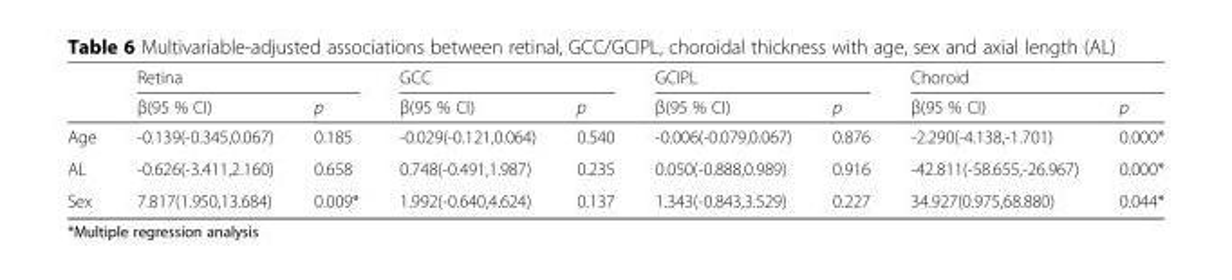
<table><thead><tr><td rowspan="2"></td><td colspan="2">Retina</td><td colspan="2">GCC</td><td colspan="2">GCIPL</td><td colspan="2">Choroid</td></tr><tr><td>β(95 % CI)</td><td>p</td><td>β(95 % CI)</td><td>p</td><td>β(95 % CI)</td><td>p</td><td>β(95 % CI)</td><td>p</td></tr></thead><tbody><tr><td>Age</td><td>-0.139(-0.345,0.067)</td><td>0.185</td><td>-0.029(-0.121,0.064)</td><td>0.540</td><td>-0.006(-0.079,0.067)</td><td>0.876</td><td>-2.290(-4.138,-1.701)</td><td>0.000*</td></tr><tr><td>AL</td><td>-0.626(-3.411,2.160)</td><td>0.658</td><td>0.748(-0.491,1.987)</td><td>0.235</td><td>0.050(-0.888,0.989)</td><td>0.916</td><td>-42.811(-58.655,-26.967)</td><td>0.000*</td></tr><tr><td>Sex</td><td>7.817(1.950,13.684)</td><td>0.009*</td><td>1.992(-0.640,4.624)</td><td>0.137</td><td>1.343(-0.843,3.529)</td><td>0.227</td><td>34.927(0.975,68.880)</td><td>0.044*</td></tr></tbody></table>